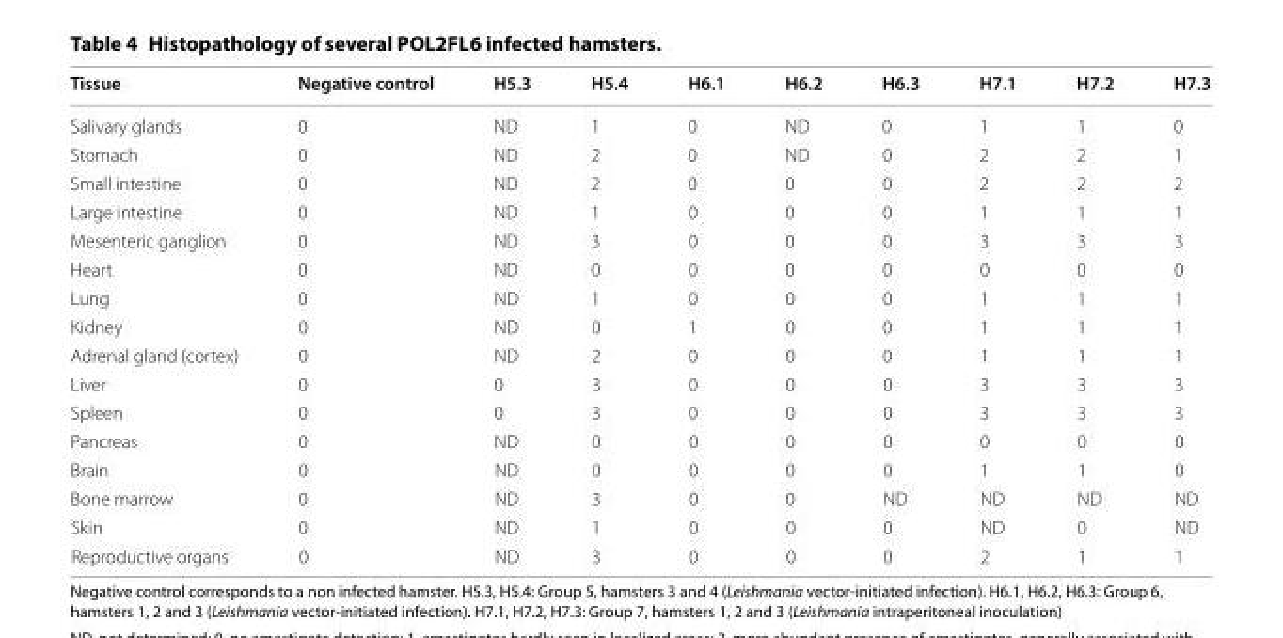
<table><thead><tr><td>Tissue</td><td>Negative control</td><td>H5.3</td><td>H5.4</td><td>H6.1</td><td>H6.2</td><td>H6.3</td><td>H7.1</td><td>H7.2</td><td>H7.3</td></tr></thead><tbody><tr><td>Salivary glands</td><td>0</td><td>ND</td><td>1</td><td>0</td><td>ND</td><td>0</td><td>1</td><td>1</td><td>0</td></tr><tr><td>Stomach</td><td>0</td><td>ND</td><td>2</td><td>0</td><td>ND</td><td>0</td><td>2</td><td>2</td><td>1</td></tr><tr><td>Small intestine</td><td>0</td><td>ND</td><td>2</td><td>0</td><td>0</td><td>0</td><td>2</td><td>2</td><td>2</td></tr><tr><td>Large intestine</td><td>0</td><td>ND</td><td>1</td><td>0</td><td>0</td><td>0</td><td>1</td><td>1</td><td>1</td></tr><tr><td>Mesenteric ganglion</td><td>0</td><td>ND</td><td>3</td><td>0</td><td>0</td><td>0</td><td>3</td><td>3</td><td>3</td></tr><tr><td>Heart</td><td>0</td><td>ND</td><td>0</td><td>0</td><td>0</td><td>0</td><td>0</td><td>0</td><td>0</td></tr><tr><td>Lung</td><td>0</td><td>ND</td><td>1</td><td>0</td><td>0</td><td>0</td><td>1</td><td>1</td><td>1</td></tr><tr><td>Kidney</td><td>0</td><td>ND</td><td>0</td><td>1</td><td>0</td><td>0</td><td>1</td><td>1</td><td>1</td></tr><tr><td>Adrenal gland (cortex)</td><td>0</td><td>ND</td><td>2</td><td>0</td><td>0</td><td>0</td><td>1</td><td>1</td><td>1</td></tr><tr><td>Liver</td><td>0</td><td>0</td><td>3</td><td>0</td><td>0</td><td>0</td><td>3</td><td>3</td><td>3</td></tr><tr><td>Spleen</td><td>0</td><td>0</td><td>3</td><td>0</td><td>0</td><td>0</td><td>3</td><td>3</td><td>3</td></tr><tr><td>Pancreas</td><td>0</td><td>ND</td><td>0</td><td>0</td><td>0</td><td>0</td><td>0</td><td>0</td><td>0</td></tr><tr><td>Brain</td><td>0</td><td>ND</td><td>0</td><td>0</td><td>0</td><td>0</td><td>1</td><td>1</td><td>0</td></tr><tr><td>Bone marrow</td><td>0</td><td>ND</td><td>3</td><td>0</td><td>0</td><td>ND</td><td>ND</td><td>ND</td><td>ND</td></tr><tr><td>Skin</td><td>0</td><td>ND</td><td>1</td><td>0</td><td>0</td><td>0</td><td>ND</td><td>0</td><td>ND</td></tr><tr><td>Reproductive organs</td><td>0</td><td>ND</td><td>3</td><td>0</td><td>0</td><td>0</td><td>2</td><td>1</td><td>1</td></tr></tbody></table>